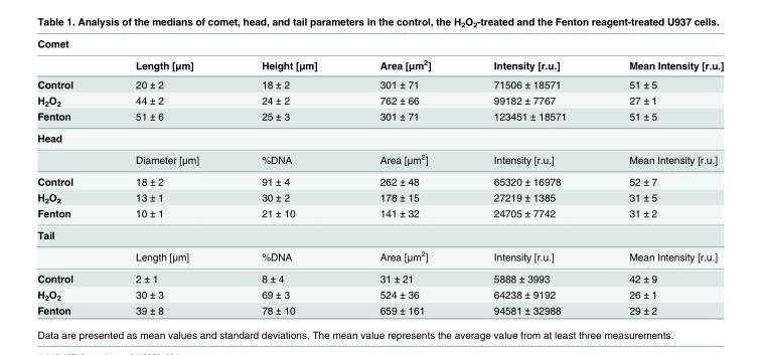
<table><thead><tr><td colspan="6">Comet</td></tr><tr><td></td><td>Length [μm]</td><td>Height [μm]</td><td>Area [μm<sup>2</sup>]</td><td>Intensity [r.u.]</td><td>Mean Intensity [r.u.]</td></tr></thead><tbody><tr><td>Control</td><td>20 ± 2</td><td>18 ± 2</td><td>301 ± 71</td><td>71506 ± 18571</td><td>51 ± 5</td></tr><tr><td>H<sub>2</sub>O<sub>2</sub></td><td>44 ± 2</td><td>24 ± 2</td><td>762 ± 66</td><td>99182 ± 7767</td><td>27 ± 1</td></tr><tr><td>Fenton</td><td>51 ± 6</td><td>25 ± 3</td><td>301 ± 71</td><td>123451 ± 18571</td><td>51 ± 5</td></tr><tr><td colspan="6">Head</td></tr><tr><td></td><td>Diameter [μm]</td><td>%DNA</td><td>Area [μm<sup>2</sup>]</td><td>Intensity [r.u.]</td><td>Mean Intensity [r.u.]</td></tr><tr><td>Control</td><td>18 ± 2</td><td>91 ± 4</td><td>262 ± 48</td><td>65320 ± 16978</td><td>52 ± 7</td></tr><tr><td>H<sub>2</sub>O<sub>2</sub></td><td>13 ± 1</td><td>30 ± 2</td><td>178 ± 15</td><td>27219 ± 1385</td><td>31 ± 5</td></tr><tr><td>Fenton</td><td>10 ± 1</td><td>21 ± 10</td><td>141 ± 32</td><td>24705 ± 7742</td><td>31 ± 2</td></tr><tr><td colspan="6">Tail</td></tr><tr><td></td><td>Length [μm]</td><td>%DNA</td><td>Area [μm<sup>2</sup>]</td><td>Intensity [r.u.]</td><td>Mean Intensity [r.u.]</td></tr><tr><td>Control</td><td>2 ± 1</td><td>8 ± 4</td><td>31 ± 21</td><td>5888 ± 3993</td><td>42 ± 9</td></tr><tr><td>H<sub>2</sub>O<sub>2</sub></td><td>30 ± 3</td><td>69 ± 3</td><td>524 ± 36</td><td>64238 ± 9192</td><td>26 ± 1</td></tr><tr><td>Fenton</td><td>39 ± 8</td><td>78 ± 10</td><td>659 ± 161</td><td>94581 ± 32988</td><td>29 ± 2</td></tr></tbody></table>